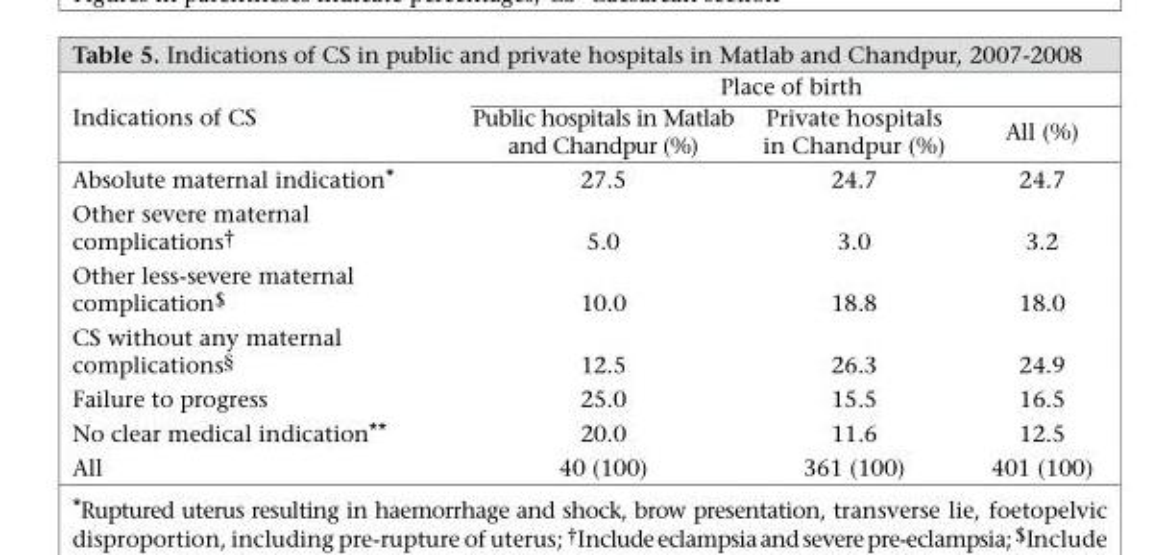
<table><thead><tr><td rowspan="2">Indications of CS</td><td colspan="3">Place of birth</td></tr><tr><td>Public hospitals in Matlab and Chandpur (%)</td><td>Private hospitals in Chandpur (%)</td><td>All (%)</td></tr></thead><tbody><tr><td>Absolute maternal indication*</td><td>27.5</td><td>24.7</td><td>24.7</td></tr><tr><td>Other severe maternal complications†</td><td>5.0</td><td>3.0</td><td>3.2</td></tr><tr><td>Other less-severe maternal complication$</td><td>10.0</td><td>18.8</td><td>18.0</td></tr><tr><td>CS without any maternal complications§</td><td>12.5</td><td>26.3</td><td>24.9</td></tr><tr><td>Failure to progress</td><td>25.0</td><td>15.5</td><td>16.5</td></tr><tr><td>No clear medical indication**</td><td>20.0</td><td>11.6</td><td>12.5</td></tr><tr><td>All</td><td>40 (100)</td><td>361 (100)</td><td>401 (100)</td></tr></tbody></table>